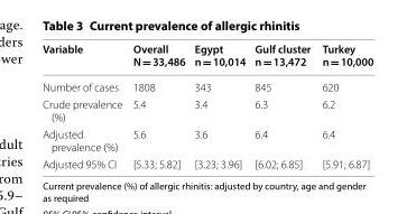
<table><thead><tr><td>Variable</td><td>Overall N = 33,486</td><td>Egypt n = 10,014</td><td>Gulf cluster n = 13,472</td><td>Turkey n = 10,000</td></tr></thead><tbody><tr><td>Number of cases</td><td>1808</td><td>343</td><td>845</td><td>620</td></tr><tr><td>Crude prevalence (%)</td><td>5.4</td><td>3.4</td><td>6.3</td><td>6.2</td></tr><tr><td>Adjusted prevalence (%)</td><td>5.6</td><td>3.6</td><td>6.4</td><td>6.4</td></tr><tr><td>Adjusted 95% CI</td><td>[5.33; 5.82]</td><td>[3.23; 3.96]</td><td>[6.02; 6.85]</td><td>[5.91; 6.87]</td></tr></tbody></table>